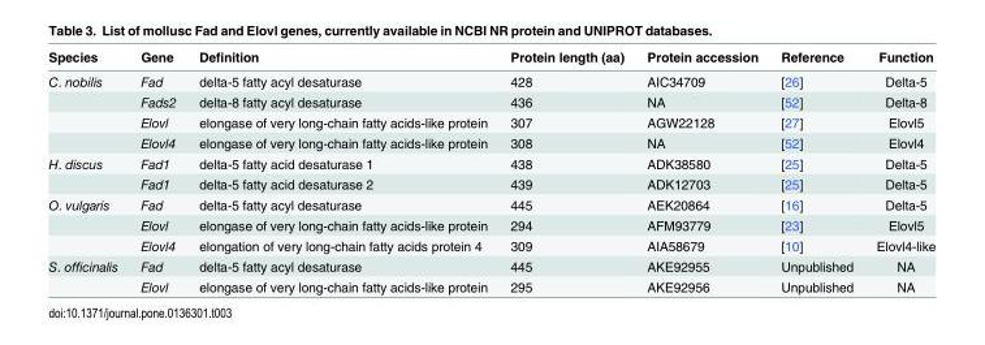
<table><thead><tr><td>Species</td><td>Gene</td><td>Definition</td><td>Protein length (aa)</td><td>Protein accession</td><td>Reference</td><td>Function</td></tr></thead><tbody><tr><td rowspan="4">C. nobilis</td><td>Fad</td><td>delta-5 fatty acyl desaturase</td><td>428</td><td>AIC34709</td><td>[26]</td><td>Delta-5</td></tr><tr><td>Fads2</td><td>delta-8 fatty acyl desaturase</td><td>436</td><td>NA</td><td>[52]</td><td>Delta-8</td></tr><tr><td>Elovl</td><td>elongase of very long-chain fatty acids-like protein</td><td>307</td><td>AGW22128</td><td>[27]</td><td>Elovl5</td></tr><tr><td>Elovl4</td><td>elongase of very long-chain fatty acids-like protein</td><td>308</td><td>NA</td><td>[52]</td><td>Elovl4</td></tr><tr><td rowspan="2">H. discus</td><td>Fad1</td><td>delta-5 fatty acid desaturase 1</td><td>438</td><td>ADK38580</td><td>[25]</td><td>Delta-5</td></tr><tr><td>Fad1</td><td>delta-5 fatty acid desaturase 2</td><td>439</td><td>ADK12703</td><td>[25]</td><td>Delta-5</td></tr><tr><td rowspan="3">O. vulgaris</td><td>Fad</td><td>delta-5 fatty acyl desaturase</td><td>445</td><td>AEK20864</td><td>[16]</td><td>Delta-5</td></tr><tr><td>Elovl</td><td>elongase of very long-chain fatty acids-like protein</td><td>294</td><td>AFM93779</td><td>[23]</td><td>Elovl5</td></tr><tr><td>Elovl4</td><td>elongation of very long-chain fatty acids protein 4</td><td>309</td><td>AIA58679</td><td>[10]</td><td>Elovl4-like</td></tr><tr><td rowspan="2">S. officinalis</td><td>Fad</td><td>delta-5 fatty acyl desaturase</td><td>445</td><td>AKE92955</td><td>Unpublished</td><td>NA</td></tr><tr><td>Elovl</td><td>elongase of very long-chain fatty acids-like protein</td><td>295</td><td>AKE92956</td><td>Unpublished</td><td>NA</td></tr></tbody></table>